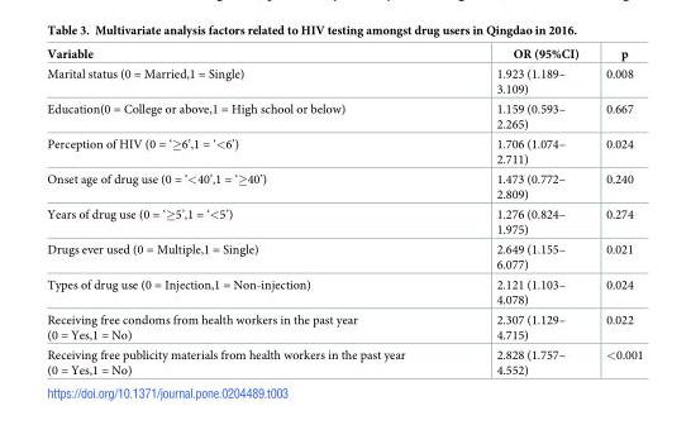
<table><thead><tr><td>Variable</td><td>OR (95%CI)</td><td>p</td></tr></thead><tbody><tr><td>Marital status (0 = Married,1 = Single)</td><td>1.923 (1.189– 3.109)</td><td>0.008</td></tr><tr><td>Education(0 = College or above,1 = High school or below)</td><td>1.159 (0.593– 2.265)</td><td>0.667</td></tr><tr><td>Perception of HIV (0 = ‘≥6’,1 = ‘&lt;6’)</td><td>1.706 (1.074– 2.711)</td><td>0.024</td></tr><tr><td>Onset age of drug use (0 = ‘&lt;40’,1 = ‘≥40’)</td><td>1.473 (0.772– 2.809)</td><td>0.240</td></tr><tr><td>Years of drug use (0 = ‘≥5’,1 = ‘&lt;5’)</td><td>1.276 (0.824– 1.975)</td><td>0.274</td></tr><tr><td>Drugs ever used (0 = Multiple,1 = Single)</td><td>2.649 (1.155– 6.077)</td><td>0.021</td></tr><tr><td>Types of drug use (0 = Injection,1 = Non-injection)</td><td>2.121 (1.103– 4.078)</td><td>0.024</td></tr><tr><td>Receiving free condoms from health workers in the past year (0 = Yes,1 = No)</td><td>2.307 (1.129– 4.715)</td><td>0.022</td></tr><tr><td>Receiving free publicity materials from health workers in the past year (0 = Yes,1 = No)</td><td>2.828 (1.757– 4.552)</td><td>&lt;0.001</td></tr></tbody></table>